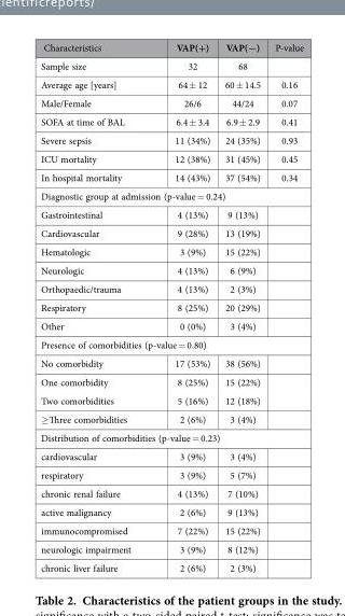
<table><thead><tr><td>Characteristics</td><td>VAP(+)</td><td>VAP(−)</td><td>P-value</td></tr></thead><tbody><tr><td>Sample size</td><td>32</td><td>68</td><td></td></tr><tr><td>Average age [years]</td><td>64 ± 12</td><td>60 ± 14.5</td><td>0.16</td></tr><tr><td>Male/Female</td><td>26/6</td><td>44/24</td><td>0.07</td></tr><tr><td>SOFA at time of BAL</td><td>6.4 ± 3.4</td><td>6.9 ± 2.9</td><td>0.41</td></tr><tr><td>Severe sepsis</td><td>11 (34%)</td><td>24 (35%)</td><td>0.93</td></tr><tr><td>ICU mortality</td><td>12 (38%)</td><td>31 (45%)</td><td>0.45</td></tr><tr><td>In hospital mortality</td><td>14 (43%)</td><td>37 (54%)</td><td>0.34</td></tr><tr><td colspan="4">Diagnostic group at admission (p-value = 0.24)</td></tr><tr><td>Gastrointestinal</td><td>4 (13%)</td><td>9 (13%)</td><td></td></tr><tr><td>Cardiovascular</td><td>9 (28%)</td><td>13 (19%)</td><td></td></tr><tr><td>Hematologic</td><td>3 (9%)</td><td>15 (22%)</td><td></td></tr><tr><td>Neurologic</td><td>4 (13%)</td><td>6 (9%)</td><td></td></tr><tr><td>Orthopaedic/trauma</td><td>4 (13%)</td><td>2 (3%)</td><td></td></tr><tr><td>Respiratory</td><td>8 (25%)</td><td>20 (29%)</td><td></td></tr><tr><td>Other</td><td>0 (0%)</td><td>3 (4%)</td><td></td></tr><tr><td colspan="4">Presence of comorbidities (p-value = 0.80)</td></tr><tr><td>No comorbidity</td><td>17 (53%)</td><td>38 (56%)</td><td></td></tr><tr><td>One comorbidity Two comorbidities</td><td>8 (25%) 5 (16%)</td><td>15 (22%) 12 (18%)</td><td></td></tr><tr><td>≥ Three comorbidities</td><td>2 (6%)</td><td>3 (4%)</td><td></td></tr><tr><td colspan="4">Distribution of comorbidities (p-value = 0.23)</td></tr><tr><td>cardiovascular</td><td>3 (9%)</td><td>3 (4%)</td><td></td></tr><tr><td>respiratory</td><td>3 (9%)</td><td>5 (7%)</td><td></td></tr><tr><td>chronic renal failure</td><td>4 (13%)</td><td>7 (10%)</td><td></td></tr><tr><td>active malignancy</td><td>2 (6%)</td><td>9 (13%)</td><td></td></tr><tr><td>immunocompromised</td><td>7 (22%)</td><td>15 (22%)</td><td></td></tr><tr><td>neurologic impairment</td><td>3 (9%)</td><td>8 (12%)</td><td></td></tr><tr><td>chronic liver failure</td><td>2 (6%)</td><td>2 (3%)</td><td></td></tr></tbody></table>